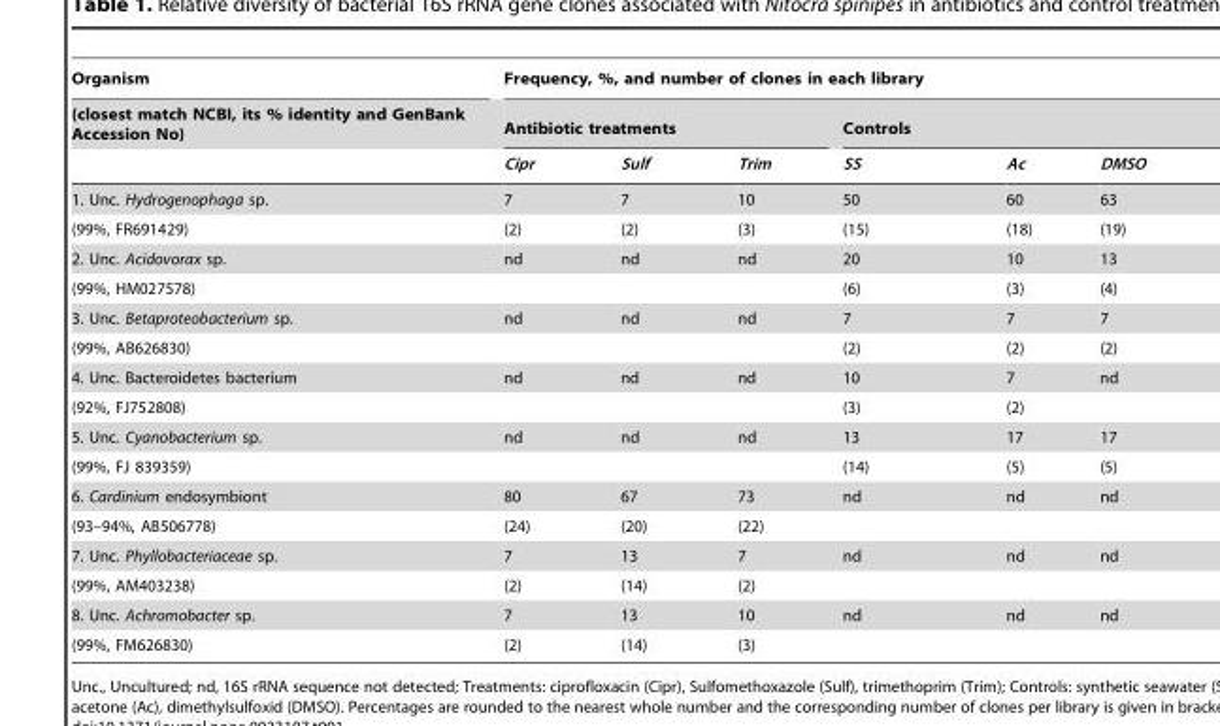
<table><thead><tr><td rowspan="3">Organism (closest match NCBI, its % identity and GenBank Accession No)</td><td colspan="6">Frequency, %, and number of clones in each library</td></tr><tr><td colspan="3">Antibiotic treatments</td><td colspan="3">Controls</td></tr><tr><td>Cipr</td><td>Sulf</td><td>Trim</td><td>SS</td><td>Ac</td><td>DMSO</td></tr></thead><tbody><tr><td>1. Unc. Hydrogenophaga sp.</td><td>7</td><td>7</td><td>10</td><td>50</td><td>60</td><td>63</td></tr><tr><td>(99%, FR691429)</td><td>(2)</td><td>(2)</td><td>(3)</td><td>(15)</td><td>(18)</td><td>(19)</td></tr><tr><td>2. Unc. Acidovorax sp.</td><td>nd</td><td>nd</td><td>nd</td><td>20</td><td>10</td><td>13</td></tr><tr><td>(99%, HM027578)</td><td></td><td></td><td></td><td>(6)</td><td>(3)</td><td>(4)</td></tr><tr><td>3. Unc. Betaproteobacterium sp.</td><td>nd</td><td>nd</td><td>nd</td><td>7</td><td>7</td><td>7</td></tr><tr><td>(99%, AB626830)</td><td></td><td></td><td></td><td>(2)</td><td>(2)</td><td>(2)</td></tr><tr><td>4. Unc. Bacteroidetes bacterium</td><td>nd</td><td>nd</td><td>nd</td><td>10</td><td>7</td><td>nd</td></tr><tr><td>(92%, FJ752808)</td><td></td><td></td><td></td><td>(3)</td><td>(2)</td><td></td></tr><tr><td>5. Unc. Cyanobacterium sp.</td><td>nd</td><td>nd</td><td>nd</td><td>13</td><td>17</td><td>17</td></tr><tr><td>(99%, FJ 839359)</td><td></td><td></td><td></td><td>(14)</td><td>(5)</td><td>(5)</td></tr><tr><td>6. Cardinium endosymbiont</td><td>80</td><td>67</td><td>73</td><td>nd</td><td>nd</td><td>nd</td></tr><tr><td>(93–94%, AB506778)</td><td>(24)</td><td>(20)</td><td>(22)</td><td></td><td></td><td></td></tr><tr><td>7. Unc. Phyllobacteriaceae sp.</td><td>7</td><td>13</td><td>7</td><td>nd</td><td>nd</td><td>nd</td></tr><tr><td>(99%, AM403238)</td><td>(2)</td><td>(14)</td><td>(2)</td><td></td><td></td><td></td></tr><tr><td>8. Unc. Achromobacter sp.</td><td>7</td><td>13</td><td>10</td><td>nd</td><td>nd</td><td>nd</td></tr><tr><td>(99%, FM626830)</td><td>(2)</td><td>(14)</td><td>(3)</td><td></td><td></td><td></td></tr></tbody></table>